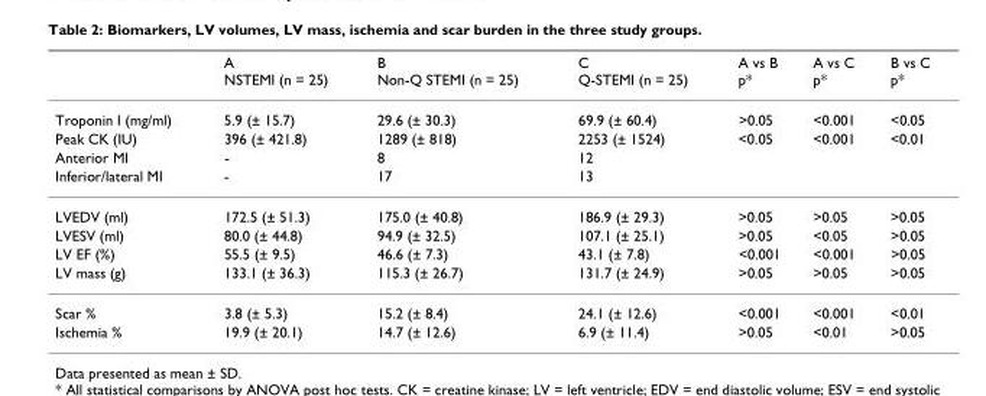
<table><thead><tr><td></td><td>A NSTEMI (n = 25)</td><td>B Non-Q STEMI (n = 25)</td><td>C Q-STEMI (n = 25)</td><td>A vs B p*</td><td>A vs C p*</td><td>B vs C p*</td></tr></thead><tbody><tr><td>Troponin I (mg/ml)</td><td>5.9 (± 15.7)</td><td>29.6 (± 30.3)</td><td>69.9 (± 60.4)</td><td>&gt;0.05</td><td>&lt;0.001</td><td>&lt;0.05</td></tr><tr><td>Peak CK (IU)</td><td>396 (± 421.8)</td><td>1289 (± 818)</td><td>2253 (± 1524)</td><td>&lt;0.05</td><td>&lt;0.001</td><td>&lt;0.01</td></tr><tr><td>Anterior MI</td><td>-</td><td>8</td><td>12</td><td></td><td></td><td></td></tr><tr><td>Inferior/lateral MI</td><td>-</td><td>17</td><td>13</td><td></td><td></td><td></td></tr><tr><td>LVEDV (ml)</td><td>172.5 (± 51.3)</td><td>175.0 (± 40.8)</td><td>186.9 (± 29.3)</td><td>&gt;0.05</td><td>&gt;0.05</td><td>&gt;0.05</td></tr><tr><td>LVESV (ml)</td><td>80.0 (± 44.8)</td><td>94.9 (± 32.5)</td><td>107.1 (± 25.1)</td><td>&gt;0.05</td><td>&lt;0.05</td><td>&gt;0.05</td></tr><tr><td>LV EF (%)</td><td>55.5 (± 9.5)</td><td>46.6 (± 7.3)</td><td>43.1 (± 7.8)</td><td>&lt;0.001</td><td>&lt;0.001</td><td>&gt;0.05</td></tr><tr><td>LV mass (g)</td><td>133.1 (± 36.3)</td><td>115.3 (± 26.7)</td><td>131.7 (± 24.9)</td><td>&gt;0.05</td><td>&gt;0.05</td><td>&gt;0.05</td></tr><tr><td>Scar %</td><td>3.8 (± 5.3)</td><td>15.2 (± 8.4)</td><td>24.1 (± 12.6)</td><td>&lt;0.001</td><td>&lt;0.001</td><td>&lt;0.01</td></tr><tr><td>Ischemia %</td><td>19.9 (± 20.1)</td><td>14.7 (± 12.6)</td><td>6.9 (± 11.4)</td><td>&gt;0.05</td><td>&lt;0.01</td><td>&gt;0.05</td></tr></tbody></table>